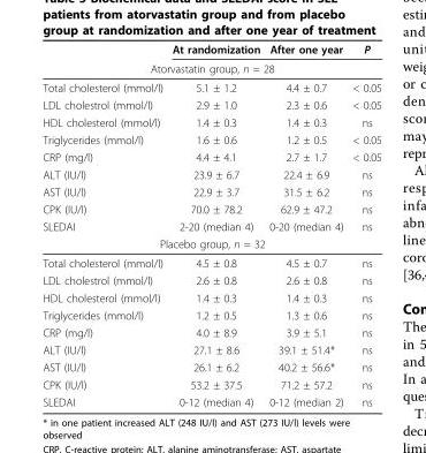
<table><thead><tr><td></td><td>At randomization</td><td>After one year</td><td>P</td></tr><tr><td colspan="4">Atorvastatin group, n = 28</td></tr></thead><tbody><tr><td>Total cholesterol (mmol/l)</td><td>5.1 ± 1.2</td><td>4.4 ± 0.7</td><td>&lt; 0.05</td></tr><tr><td>LDL cholestrol (mmol/l)</td><td>2.9 ± 1.0</td><td>2.3 ± 0.6</td><td>&lt; 0.05</td></tr><tr><td>HDL cholesterol (mmol/l)</td><td>1.4 ± 0.3</td><td>1.4 ± 0.3</td><td>ns</td></tr><tr><td>Triglycerides (mmol/l)</td><td>1.6 ± 0.6</td><td>1.2 ± 0.5</td><td>&lt; 0.05</td></tr><tr><td>CRP (mg/l)</td><td>4.4 ± 4.1</td><td>2.7 ± 1.7</td><td>&lt; 0.05</td></tr><tr><td>ALT (IU/l)</td><td>23.9 ± 6.7</td><td>22.4 ± 6.9</td><td>ns</td></tr><tr><td>AST (IU/l)</td><td>22.9 ± 3.7</td><td>31.5 ± 6.2</td><td>ns</td></tr><tr><td>CPK (IU/l)</td><td>70.0 ± 78.2</td><td>62.9 ± 47.2</td><td>ns</td></tr><tr><td>SLEDAI</td><td>2-20 (median 4)</td><td>0-20 (median 4)</td><td>ns</td></tr><tr><td colspan="4">Placebo group, n = 32</td></tr><tr><td>Total cholesterol (mmol/l)</td><td>4.5 ± 0.8</td><td>4.5 ± 0.7</td><td>ns</td></tr><tr><td>LDL cholestrol (mmol/l)</td><td>2.6 ± 0.8</td><td>2.6 ± 0.8</td><td>ns</td></tr><tr><td>HDL cholesterol (mmol/l)</td><td>1.4 ± 0.3</td><td>1.4 ± 0.3</td><td>ns</td></tr><tr><td>Triglycerides (mmol/l)</td><td>1.2 ± 0.5</td><td>1.3 ± 0.6</td><td>ns</td></tr><tr><td>CRP (mg/l)</td><td>4.0 ± 8.9</td><td>3.9 ± 5.1</td><td>ns</td></tr><tr><td>ALT (IU/l)</td><td>27.1 ± 8.6</td><td>39.1 ± 51.4*</td><td>ns</td></tr><tr><td>AST (IU/l)</td><td>26.1 ± 6.2</td><td>40.2 ± 56.6*</td><td>ns</td></tr><tr><td>CPK (IU/l)</td><td>53.2 ± 37.5</td><td>71.2 ± 57.2</td><td>ns</td></tr><tr><td>SLEDAI</td><td>0-12 (median 4)</td><td>0-12 (median 2)</td><td>ns</td></tr></tbody></table>